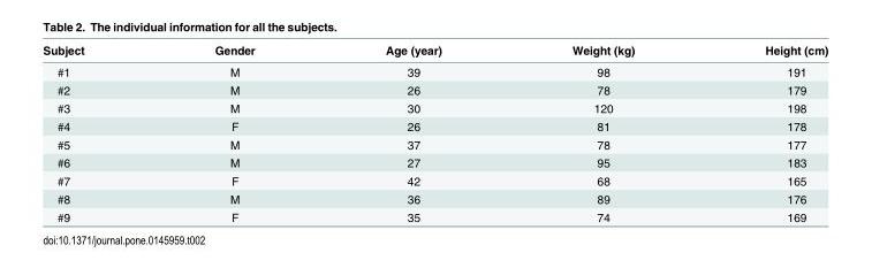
<table><thead><tr><td>Subject</td><td>Gender</td><td>Age (year)</td><td>Weight (kg)</td><td>Height (cm)</td></tr></thead><tbody><tr><td>#1</td><td>M</td><td>39</td><td>98</td><td>191</td></tr><tr><td>#2</td><td>M</td><td>26</td><td>78</td><td>179</td></tr><tr><td>#3</td><td>M</td><td>30</td><td>120</td><td>198</td></tr><tr><td>#4</td><td>F</td><td>26</td><td>81</td><td>178</td></tr><tr><td>#5</td><td>M</td><td>37</td><td>78</td><td>177</td></tr><tr><td>#6</td><td>M</td><td>27</td><td>95</td><td>183</td></tr><tr><td>#7</td><td>F</td><td>42</td><td>68</td><td>165</td></tr><tr><td>#8</td><td>M</td><td>36</td><td>89</td><td>176</td></tr><tr><td>#9</td><td>F</td><td>35</td><td>74</td><td>169</td></tr></tbody></table>